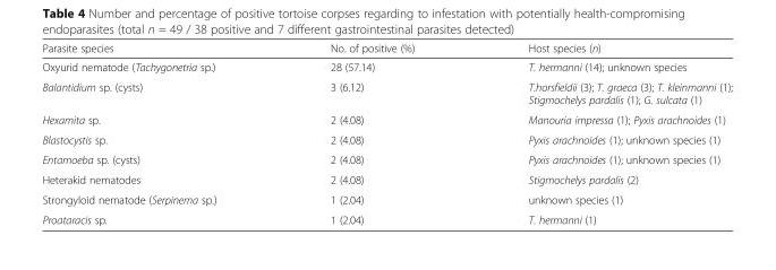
<table><thead><tr><td>Parasite species</td><td>No. of positive (%)</td><td>Host species (n)</td></tr></thead><tbody><tr><td>Oxyurid nematode (Tachygonetria sp.)</td><td>28 (57.14)</td><td>T. hermanni (14); unknown species</td></tr><tr><td>Balantidium sp. (cysts)</td><td>3 (6.12)</td><td>T.horsfieldii (3); T. graeca (3); T. kleinmanni (1); Stigmochelys pardalis (1); G. sulcata (1)</td></tr><tr><td>Hexamita sp.</td><td>2 (4.08)</td><td>Manouria impressa (1); Pyxis arachnoides (1)</td></tr><tr><td>Blastocystis sp.</td><td>2 (4.08)</td><td>Pyxis arachnoides (1); unknown species (1)</td></tr><tr><td>Entamoeba sp. (cysts)</td><td>2 (4.08)</td><td>Pyxis arachnoides (1); unknown species (1)</td></tr><tr><td>Heterakid nematodes</td><td>2 (4.08)</td><td>Stigmochelys pardalis (2)</td></tr><tr><td>Strongyloid nematode (Serpinema sp.)</td><td>1 (2.04)</td><td>unknown species (1)</td></tr><tr><td>Proataracis sp.</td><td>1 (2.04)</td><td>T. hermanni (1)</td></tr></tbody></table>